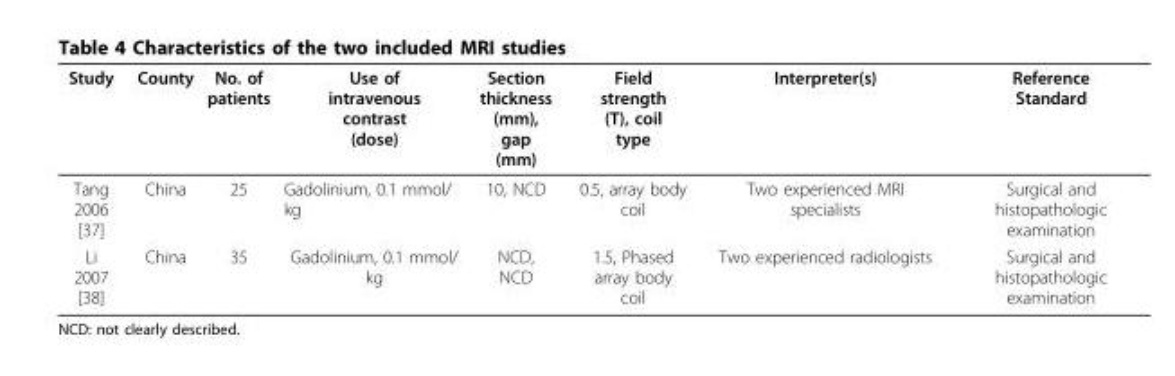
<table><thead><tr><td>Study</td><td>County</td><td>No. of patients</td><td>Use of intravenous contrast (dose)</td><td>Section thickness (mm), gap (mm)</td><td>Field strength (T), coil type</td><td>Interpreter(s)</td><td>Reference Standard</td></tr></thead><tbody><tr><td>Tang 2006 [37]</td><td>China</td><td>25</td><td>Gadolinium, 0.1 mmol/ kg</td><td>10, NCD</td><td>0.5, array body coil</td><td>Two experienced MRI specialists</td><td>Surgical and histopathologic examination</td></tr><tr><td>Li 2007 [38]</td><td>China</td><td>35</td><td>Gadolinium, 0.1 mmol/ kg</td><td>NCD, NCD</td><td>1.5, Phased array body coil</td><td>Two experienced radiologists</td><td>Surgical and histopathologic examination</td></tr></tbody></table>